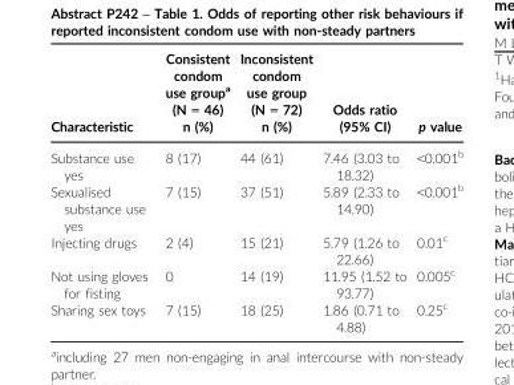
<table><thead><tr><td>Characteristic</td><td>Consistent condom use group<sup>a</sup> (N = 46) n (%)</td><td>Inconsistent condom use group (N = 72) n (%)</td><td>Odds ratio (95% CI)</td><td>p value</td></tr></thead><tbody><tr><td>Substance use yes</td><td>8 (17)</td><td>44 (61)</td><td>7.46 (3.03 to 18.32)</td><td>&lt;0.001<sup>b</sup></td></tr><tr><td>Sexualised substance use yes</td><td>7 (15)</td><td>37 (51)</td><td>5.89 (2.33 to 14.90)</td><td>&lt;0.001<sup>b</sup></td></tr><tr><td>Injecting drugs</td><td>2 (4)</td><td>15 (21)</td><td>5.79 (1.26 to 22.66)</td><td>0.01<sup>c</sup></td></tr><tr><td>Not using gloves for fisting</td><td>0</td><td>14 (19)</td><td>11.95 (1.52 to 93.77)</td><td>0.005<sup>c</sup></td></tr><tr><td>Sharing sex toys</td><td>7 (15)</td><td>18 (25)</td><td>1.86 (0.71 to 4.88)</td><td>0.25<sup>c</sup></td></tr></tbody></table>